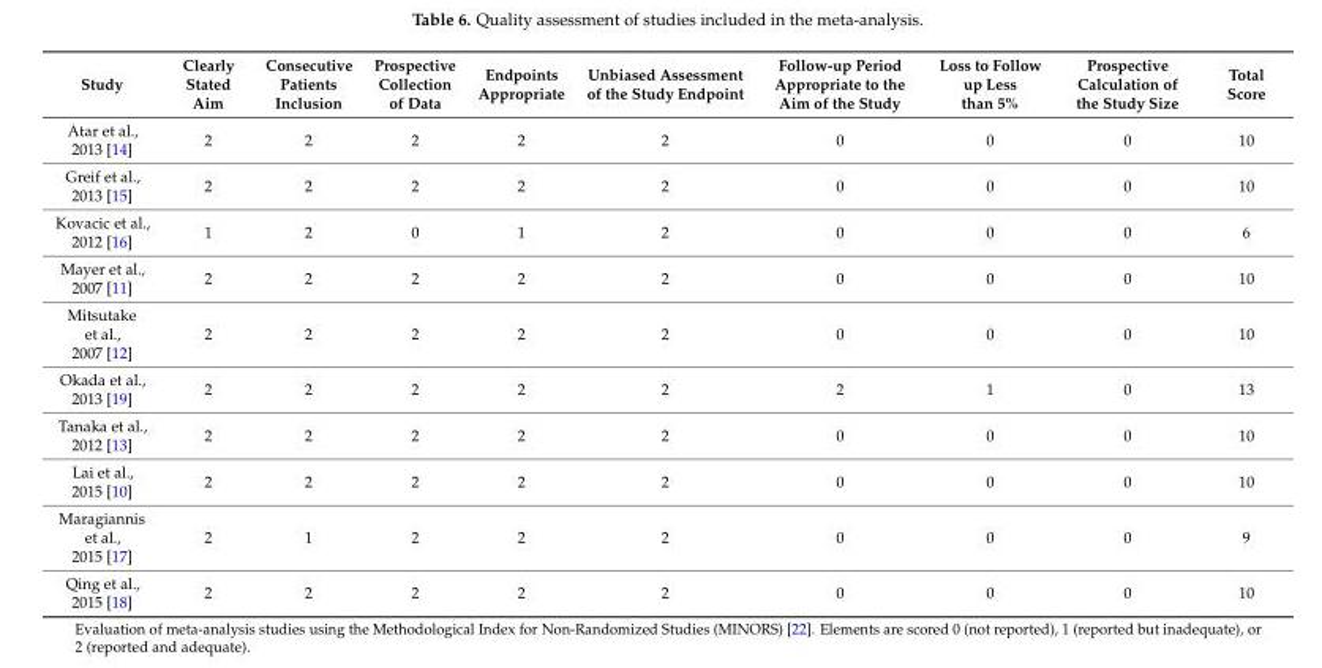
<table><thead><tr><td>Study</td><td>Clearly Stated Aim</td><td>Consecutive Patients Inclusion</td><td>Prospective Collection of Data</td><td>Endpoints Appropriate</td><td>Unbiased Assessment of the Study Endpoint</td><td>Follow-up Period Appropriate to the Aim of the Study</td><td>Loss to Follow up Less than 5%</td><td>Prospective Calculation of the Study Size</td><td>Total Score</td></tr></thead><tbody><tr><td>Atar et al., 2013 [14]</td><td>2</td><td>2</td><td>2</td><td>2</td><td>2</td><td>0</td><td>0</td><td>0</td><td>10</td></tr><tr><td>Greif et al., 2013 [15]</td><td>2</td><td>2</td><td>2</td><td>2</td><td>2</td><td>0</td><td>0</td><td>0</td><td>10</td></tr><tr><td>Kovacic et al., 2012 [16]</td><td>1</td><td>2</td><td>0</td><td>1</td><td>2</td><td>0</td><td>0</td><td>0</td><td>6</td></tr><tr><td>Mayer et al., 2007 [11]</td><td>2</td><td>2</td><td>2</td><td>2</td><td>2</td><td>0</td><td>0</td><td>0</td><td>10</td></tr><tr><td>Mitsutake et al., 2007 [12]</td><td>2</td><td>2</td><td>2</td><td>2</td><td>2</td><td>0</td><td>0</td><td>0</td><td>10</td></tr><tr><td>Okada et al., 2013 [19]</td><td>2</td><td>2</td><td>2</td><td>2</td><td>2</td><td>2</td><td>1</td><td>0</td><td>13</td></tr><tr><td>Tanaka et al., 2012 [13]</td><td>2</td><td>2</td><td>2</td><td>2</td><td>2</td><td>0</td><td>0</td><td>0</td><td>10</td></tr><tr><td>Lai et al., 2015 [10]</td><td>2</td><td>2</td><td>2</td><td>2</td><td>2</td><td>0</td><td>0</td><td>0</td><td>10</td></tr><tr><td>Maragiannis et al., 2015 [17]</td><td>2</td><td>1</td><td>2</td><td>2</td><td>2</td><td>0</td><td>0</td><td>0</td><td>9</td></tr><tr><td>Qing et al., 2015 [18]</td><td>2</td><td>2</td><td>2</td><td>2</td><td>2</td><td>0</td><td>0</td><td>0</td><td>10</td></tr></tbody></table>